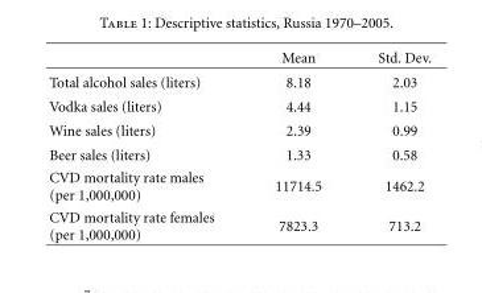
<table><thead><tr><td></td><td>Mean</td><td>Std. Dev.</td></tr></thead><tbody><tr><td>Total alcohol sales (liters)</td><td>8.18</td><td>2.03</td></tr><tr><td>Vodka sales (liters)</td><td>4.44</td><td>1.15</td></tr><tr><td>Wine sales (liters)</td><td>2.39</td><td>0.99</td></tr><tr><td>Beer sales (liters)</td><td>1.33</td><td>0.58</td></tr><tr><td>CVD mortality rate males (per 1,000,000)</td><td>11714.5</td><td>1462.2</td></tr><tr><td>CVD mortality rate females (per 1,000,000)</td><td>7823.3</td><td>713.2</td></tr></tbody></table>